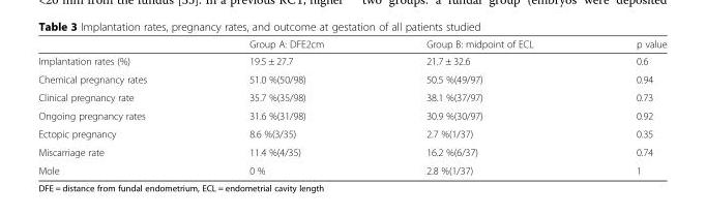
<table><thead><tr><td></td><td>Group A: DFE2cm</td><td>Group B: midpoint of ECL</td><td>p value</td></tr></thead><tbody><tr><td>Implantation rates (%)</td><td>19.5 ± 27.7</td><td>21.7 ± 32.6</td><td>0.6</td></tr><tr><td>Chemical pregnancy rates</td><td>51.0 %(50/98)</td><td>50.5 %(49/97)</td><td>0.94</td></tr><tr><td>Clinical pregnancy rate</td><td>35.7 %(35/98)</td><td>38.1 %(37/97)</td><td>0.73</td></tr><tr><td>Ongoing pregnancy rates</td><td>31.6 %(31/98)</td><td>30.9 %(30/97)</td><td>0.92</td></tr><tr><td>Ectopic pregnancy</td><td>8.6 %(3/35)</td><td>2.7 %(1/37)</td><td>0.35</td></tr><tr><td>Miscarriage rate</td><td>11.4 %(4/35)</td><td>16.2 %(6/37)</td><td>0.74</td></tr><tr><td>Mole</td><td>0 %</td><td>2.8 %(1/37)</td><td>1</td></tr></tbody></table>